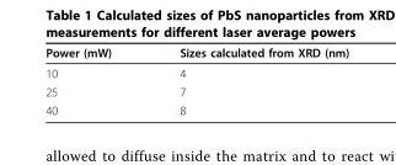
<table><thead><tr><td>Power (mW)</td><td>Sizes calculated from XRD (nm)</td></tr></thead><tbody><tr><td>10</td><td>4</td></tr><tr><td>25</td><td>7</td></tr><tr><td>40</td><td>8</td></tr></tbody></table>